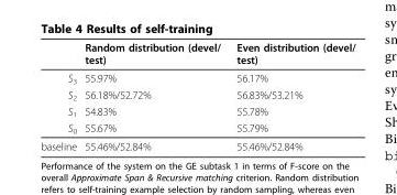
<table><thead><tr><td></td><td>Random distribution (devel/ test)</td><td>Even distribution (devel/ test)</td></tr></thead><tbody><tr><td>S<sub>3</sub></td><td>55.97%</td><td>56.17%</td></tr><tr><td>S<sub>2</sub></td><td>56.18%/52.72%</td><td>56.83%/53.21%</td></tr><tr><td>S<sub>1</sub></td><td>54.83%</td><td>55.78%</td></tr><tr><td>S<sub>0</sub></td><td>55.67%</td><td>55.79%</td></tr><tr><td>baseline</td><td>55.46%/52.84%</td><td>55.46%/52.84%</td></tr></tbody></table>